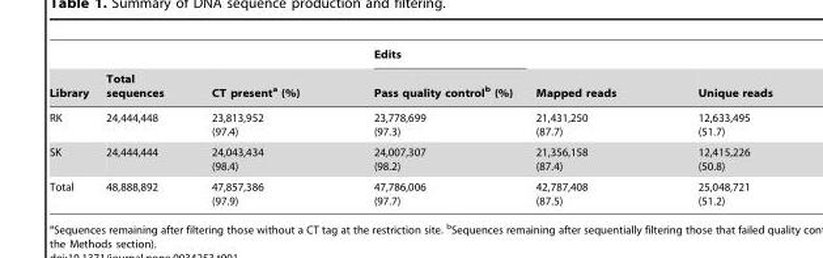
<table><thead><tr><td rowspan="2">Library</td><td rowspan="2">Total sequences</td><td rowspan="2">CT present<sup>a</sup> (%)</td><td rowspan="2">Edits Pass quality control<sup>b</sup> (%)</td><td rowspan="2">Mapped reads</td><td rowspan="2">Unique reads</td></tr><tr></tr></thead><tbody><tr><td>RK</td><td>24,444,448</td><td>23,813,952 (97.4)</td><td>23,778,699 (97.3)</td><td>21,431,250 (87.7)</td><td>12,633,495 (51.7)</td></tr><tr><td>SK</td><td>24,444,444</td><td>24,043,434 (98.4)</td><td>24,007,307 (98.2)</td><td>21,356,158 (87.4)</td><td>12,415,226 (50.8)</td></tr><tr><td>Total</td><td>48,888,892</td><td>47,857,386 (97.9)</td><td>47,786,006 (97.7)</td><td>42,787,408 (87.5)</td><td>25,048,721 (51.2)</td></tr></tbody></table>